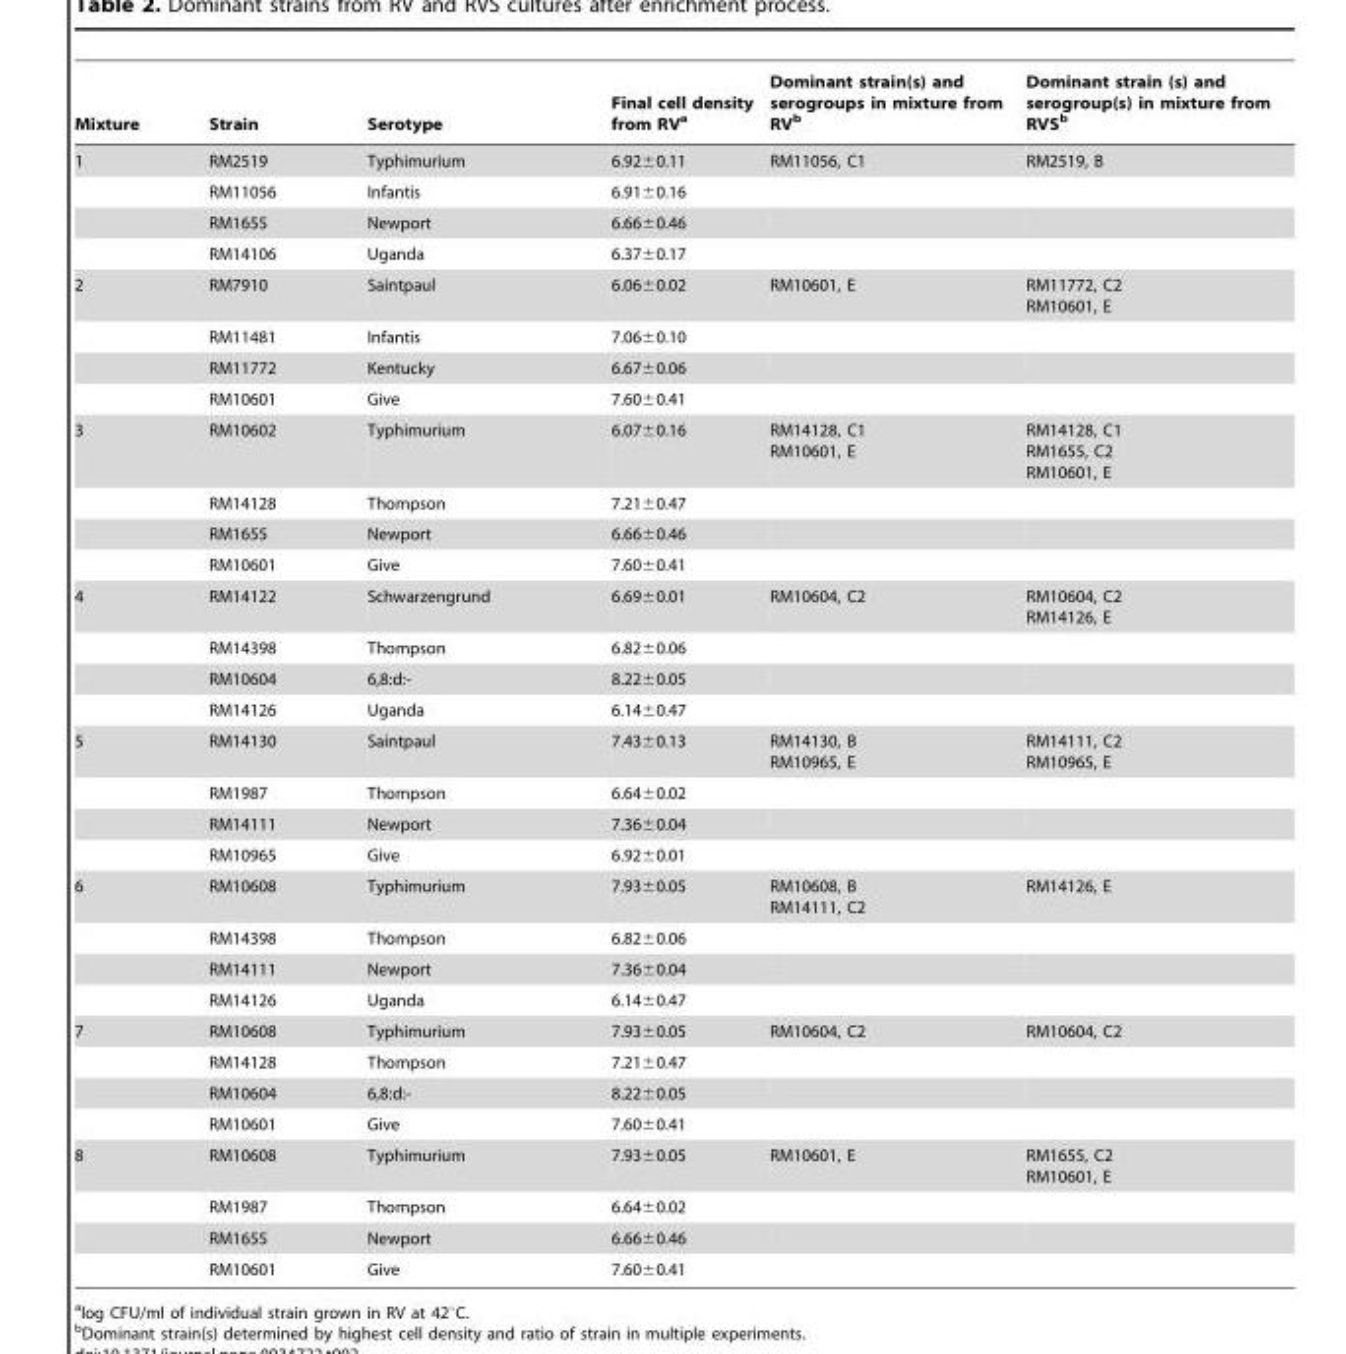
<table><thead><tr><td>Mixture</td><td>Strain</td><td>Serotype</td><td>Final cell density from RV<sup>a</sup></td><td>Dominant strain(s) and serogroups in mixture from RV<sup>b</sup></td><td>Dominant strain (s) and serogroup(s) in mixture from RVS<sup>b</sup></td></tr></thead><tbody><tr><td rowspan="4">1</td><td>RM2519</td><td>Typhimurium</td><td>6.92±0.11</td><td>RM11056, C1</td><td>RM2519, B</td></tr><tr><td>RM11056</td><td>Infantis</td><td>6.91±0.16</td><td></td><td></td></tr><tr><td>RM1655</td><td>Newport</td><td>6.66±0.46</td><td></td><td></td></tr><tr><td>RM14106</td><td>Uganda</td><td>6.37±0.17</td><td></td><td></td></tr><tr><td rowspan="4">2</td><td>RM7910</td><td>Saintpaul</td><td>6.06±0.02</td><td>RM10601, E</td><td>RM11772, C2 RM10601, E</td></tr><tr><td>RM11481</td><td>Infantis</td><td>7.06±0.10</td><td></td><td></td></tr><tr><td>RM11772</td><td>Kentucky</td><td>6.67±0.06</td><td></td><td></td></tr><tr><td>RM10601</td><td>Give</td><td>7.60±0.41</td><td></td><td></td></tr><tr><td rowspan="4">3</td><td>RM10602</td><td>Typhimurium</td><td>6.07±0.16</td><td>RM14128, C1 RM10601, E</td><td>RM14128, C1 RM1655, C2 RM10601, E</td></tr><tr><td>RM14128</td><td>Thompson</td><td>7.21±0.47</td><td></td><td></td></tr><tr><td>RM1655</td><td>Newport</td><td>6.66±0.46</td><td></td><td></td></tr><tr><td>RM10601</td><td>Give</td><td>7.60±0.41</td><td></td><td></td></tr><tr><td rowspan="4">4</td><td>RM14122</td><td>Schwarzengrund</td><td>6.69±0.01</td><td>RM10604, C2</td><td>RM10604, C2 RM14126, E</td></tr><tr><td>RM14398</td><td>Thompson</td><td>6.82±0.06</td><td></td><td></td></tr><tr><td>RM10604</td><td>6,8:d:-</td><td>8.22±0.05</td><td></td><td></td></tr><tr><td>RM14126</td><td>Uganda</td><td>6.14±0.47</td><td></td><td></td></tr><tr><td rowspan="4">5</td><td>RM14130</td><td>Saintpaul</td><td>7.43±0.13</td><td>RM14130, B RM10965, E</td><td>RM14111, C2 RM10965, E</td></tr><tr><td>RM1987</td><td>Thompson</td><td>6.64±0.02</td><td></td><td></td></tr><tr><td>RM14111</td><td>Newport</td><td>7.36±0.04</td><td></td><td></td></tr><tr><td>RM10965</td><td>Give</td><td>6.92±0.01</td><td></td><td></td></tr><tr><td rowspan="4">6</td><td>RM10608</td><td>Typhimurium</td><td>7.93±0.05</td><td>RM10608, B RM14111, C2</td><td>RM14126, E</td></tr><tr><td>RM14398</td><td>Thompson</td><td>6.82±0.06</td><td></td><td></td></tr><tr><td>RM14111</td><td>Newport</td><td>7.36±0.04</td><td></td><td></td></tr><tr><td>RM14126</td><td>Uganda</td><td>6.14±0.47</td><td></td><td></td></tr><tr><td rowspan="4">7</td><td>RM10608</td><td>Typhimurium</td><td>7.93±0.05</td><td>RM10604, C2</td><td>RM10604, C2</td></tr><tr><td>RM14128</td><td>Thompson</td><td>7.21±0.47</td><td></td><td></td></tr><tr><td>RM10604</td><td>6,8:d:-</td><td>8.22±0.05</td><td></td><td></td></tr><tr><td>RM10601</td><td>Give</td><td>7.60±0.41</td><td></td><td></td></tr><tr><td rowspan="4">8</td><td>RM10608</td><td>Typhimurium</td><td>7.93±0.05</td><td>RM10601, E</td><td>RM1655, C2 RM10601, E</td></tr><tr><td>RM1987</td><td>Thompson</td><td>6.64±0.02</td><td></td><td></td></tr><tr><td>RM1655</td><td>Newport</td><td>6.66±0.46</td><td></td><td></td></tr><tr><td>RM10601</td><td>Give</td><td>7.60±0.41</td><td></td><td></td></tr></tbody></table>